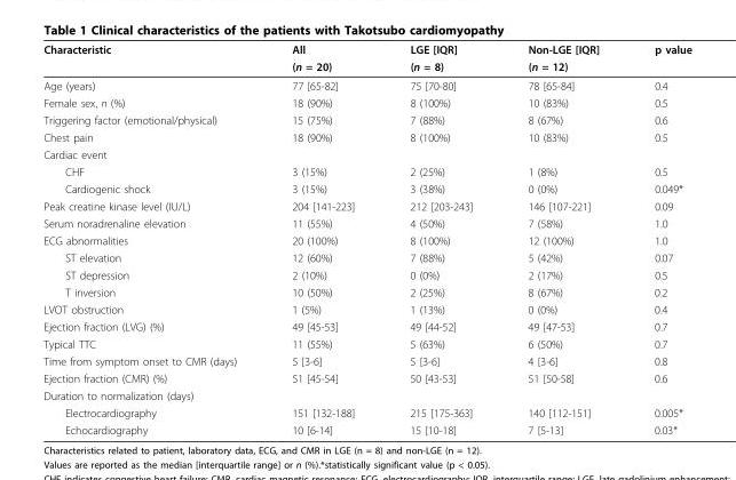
<table><thead><tr><td rowspan="2">Characteristic</td><td rowspan="2">All (n = 20)</td><td rowspan="2">LGE [IQR] (n = 8)</td><td rowspan="2">Non-LGE [IQR] (n = 12)</td><td rowspan="2">p value</td></tr><tr></tr></thead><tbody><tr><td>Age (years)</td><td>77 [65-82]</td><td>75 [70-80]</td><td>78 [65-84]</td><td>0.4</td></tr><tr><td>Female sex, n (%)</td><td>18 (90%)</td><td>8 (100%)</td><td>10 (83%)</td><td>0.5</td></tr><tr><td>Triggering factor (emotional/physical)</td><td>15 (75%)</td><td>7 (88%)</td><td>8 (67%)</td><td>0.6</td></tr><tr><td>Chest pain</td><td>18 (90%)</td><td>8 (100%)</td><td>10 (83%)</td><td>0.5</td></tr><tr><td colspan="5">Cardiac event</td></tr><tr><td>CHF</td><td>3 (15%)</td><td>2 (25%)</td><td>1 (8%)</td><td>0.5</td></tr><tr><td>Cardiogenic shock</td><td>3 (15%)</td><td>3 (38%)</td><td>0 (0%)</td><td>0.049*</td></tr><tr><td>Peak creatine kinase level (IU/L)</td><td>204 [141-223]</td><td>212 [203-243]</td><td>146 [107-221]</td><td>0.09</td></tr><tr><td>Serum noradrenaline elevation</td><td>11 (55%)</td><td>4 (50%)</td><td>7 (58%)</td><td>1.0</td></tr><tr><td>ECG abnormalities</td><td>20 (100%)</td><td>8 (100%)</td><td>12 (100%)</td><td>1.0</td></tr><tr><td>ST elevation</td><td>12 (60%)</td><td>7 (88%)</td><td>5 (42%)</td><td>0.07</td></tr><tr><td>ST depression</td><td>2 (10%)</td><td>0 (0%)</td><td>2 (17%)</td><td>0.5</td></tr><tr><td>T inversion</td><td>10 (50%)</td><td>2 (25%)</td><td>8 (67%)</td><td>0.2</td></tr><tr><td>LVOT obstruction</td><td>1 (5%)</td><td>1 (13%)</td><td>0 (0%)</td><td>0.4</td></tr><tr><td>Ejection fraction (LVG) (%)</td><td>49 [45-53]</td><td>49 [44-52]</td><td>49 [47-53]</td><td>0.7</td></tr><tr><td>Typical TTC</td><td>11 (55%)</td><td>5 (63%)</td><td>6 (50%)</td><td>0.7</td></tr><tr><td>Time from symptom onset to CMR (days)</td><td>5 [3-6]</td><td>5 [3-6]</td><td>4 [3-6]</td><td>0.8</td></tr><tr><td>Ejection fraction (CMR) (%)</td><td>51 [45-54]</td><td>50 [43-53]</td><td>51 [50-58]</td><td>0.6</td></tr><tr><td colspan="5">Duration to normalization (days)</td></tr><tr><td>Electrocardiography</td><td>151 [132-188]</td><td>215 [175-363]</td><td>140 [112-151]</td><td>0.005*</td></tr><tr><td>Echocardiography</td><td>10 [6-14]</td><td>15 [10-18]</td><td>7 [5-13]</td><td>0.03*</td></tr></tbody></table>